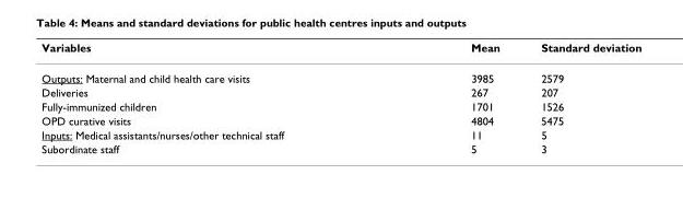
<table><thead><tr><td>Variables</td><td>Mean</td><td>Standard deviation</td></tr></thead><tbody><tr><td>Outputs: Maternal and child health care visits</td><td>3985</td><td>2579</td></tr><tr><td>Deliveries</td><td>267</td><td>207</td></tr><tr><td>Fully-immunized children</td><td>1701</td><td>1526</td></tr><tr><td>OPD curative visits</td><td>4804</td><td>5475</td></tr><tr><td>Inputs: Medical assistants/nurses/other technical staff</td><td>11</td><td>5</td></tr><tr><td>Subordinate staff</td><td>5</td><td>3</td></tr></tbody></table>